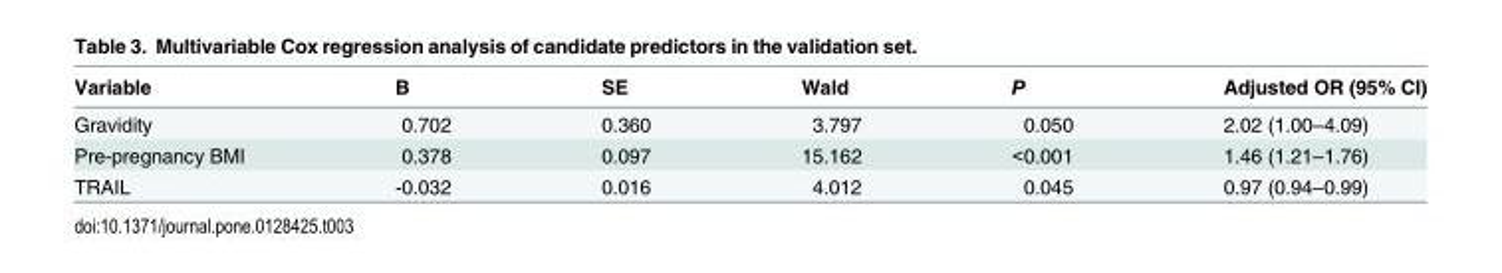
<table><thead><tr><td>Variable</td><td>B</td><td>SE</td><td>Wald</td><td>P</td><td>Adjusted OR (95% CI)</td></tr></thead><tbody><tr><td>Gravidity</td><td>0.702</td><td>0.360</td><td>3.797</td><td>0.050</td><td>2.02 (1.00–4.09)</td></tr><tr><td>Pre-pregnancy BMI</td><td>0.378</td><td>0.097</td><td>15.162</td><td>&lt;0.001</td><td>1.46 (1.21–1.76)</td></tr><tr><td>TRAIL</td><td>-0.032</td><td>0.016</td><td>4.012</td><td>0.045</td><td>0.97 (0.94–0.99)</td></tr></tbody></table>